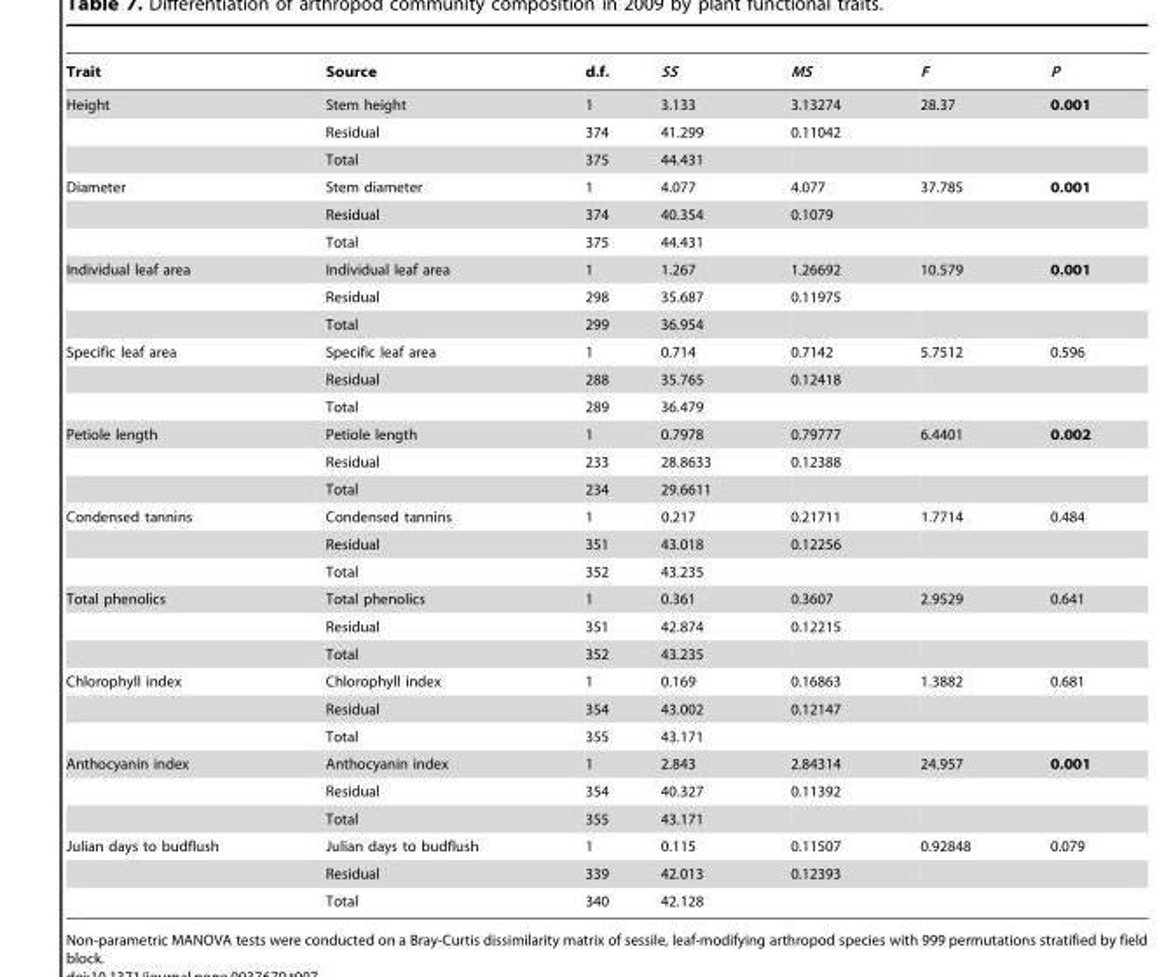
<table><thead><tr><td>Trait</td><td>Source</td><td>d.f.</td><td>SS</td><td>MS</td><td>F</td><td>P</td></tr></thead><tbody><tr><td rowspan="3">Height</td><td>Stem height</td><td>1</td><td>3.133</td><td>3.13274</td><td>28.37</td><td>0.001</td></tr><tr><td>Residual</td><td>374</td><td>41.299</td><td>0.11042</td><td></td><td></td></tr><tr><td>Total</td><td>375</td><td>44.431</td><td></td><td></td><td></td></tr><tr><td rowspan="3">Diameter</td><td>Stem diameter</td><td>1</td><td>4.077</td><td>4.077</td><td>37.785</td><td>0.001</td></tr><tr><td>Residual</td><td>374</td><td>40.354</td><td>0.1079</td><td></td><td></td></tr><tr><td>Total</td><td>375</td><td>44.431</td><td></td><td></td><td></td></tr><tr><td rowspan="3">Individual leaf area</td><td>Individual leaf area</td><td>1</td><td>1.267</td><td>1.26692</td><td>10.579</td><td>0.001</td></tr><tr><td>Residual</td><td>298</td><td>35.687</td><td>0.11975</td><td></td><td></td></tr><tr><td>Total</td><td>299</td><td>36.954</td><td></td><td></td><td></td></tr><tr><td rowspan="3">Specific leaf area</td><td>Specific leaf area</td><td>1</td><td>0.714</td><td>0.7142</td><td>5.7512</td><td>0.596</td></tr><tr><td>Residual</td><td>288</td><td>35.765</td><td>0.12418</td><td></td><td></td></tr><tr><td>Total</td><td>289</td><td>36.479</td><td></td><td></td><td></td></tr><tr><td rowspan="3">Petiole length</td><td>Petiole length</td><td>1</td><td>0.7978</td><td>0.79777</td><td>6.4401</td><td>0.002</td></tr><tr><td>Residual</td><td>233</td><td>28.8633</td><td>0.12388</td><td></td><td></td></tr><tr><td>Total</td><td>234</td><td>29.6611</td><td></td><td></td><td></td></tr><tr><td rowspan="3">Condensed tannins</td><td>Condensed tannins</td><td>1</td><td>0.217</td><td>0.21711</td><td>1.7714</td><td>0.484</td></tr><tr><td>Residual</td><td>351</td><td>43.018</td><td>0.12256</td><td></td><td></td></tr><tr><td>Total</td><td>352</td><td>43.235</td><td></td><td></td><td></td></tr><tr><td rowspan="3">Total phenolics</td><td>Total phenolics</td><td>1</td><td>0.361</td><td>0.3607</td><td>2.9529</td><td>0.641</td></tr><tr><td>Residual</td><td>351</td><td>42.874</td><td>0.12215</td><td></td><td></td></tr><tr><td>Total</td><td>352</td><td>43.235</td><td></td><td></td><td></td></tr><tr><td rowspan="3">Chlorophyll index</td><td>Chlorophyll index</td><td>1</td><td>0.169</td><td>0.16863</td><td>1.3882</td><td>0.681</td></tr><tr><td>Residual</td><td>354</td><td>43.002</td><td>0.12147</td><td></td><td></td></tr><tr><td>Total</td><td>355</td><td>43.171</td><td></td><td></td><td></td></tr><tr><td rowspan="3">Anthocyanin index</td><td>Anthocyanin index</td><td>1</td><td>2.843</td><td>2.84314</td><td>24.957</td><td>0.001</td></tr><tr><td>Residual</td><td>354</td><td>40.327</td><td>0.11392</td><td></td><td></td></tr><tr><td>Total</td><td>355</td><td>43.171</td><td></td><td></td><td></td></tr><tr><td rowspan="3">Julian days to budflush</td><td>Julian days to budflush</td><td>1</td><td>0.115</td><td>0.11507</td><td>0.92848</td><td>0.079</td></tr><tr><td>Residual</td><td>339</td><td>42.013</td><td>0.12393</td><td></td><td></td></tr><tr><td>Total</td><td>340</td><td>42.128</td><td></td><td></td><td></td></tr></tbody></table>